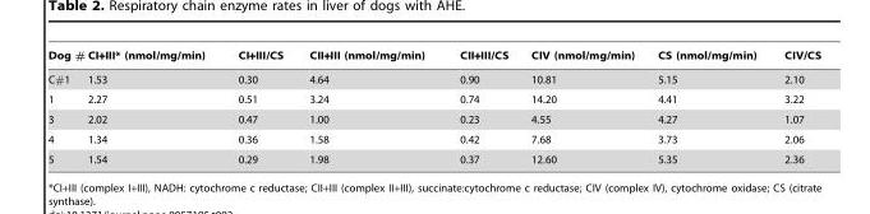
<table><thead><tr><td>Dog #</td><td>CI+III* (nmol/mg/min)</td><td>CI+III/CS</td><td>CII+III (nmol/mg/min)</td><td>CII+III/CS</td><td>CIV (nmol/mg/min)</td><td>CS (nmol/mg/min)</td><td>CIV/CS</td></tr></thead><tbody><tr><td>C#1</td><td>1.53</td><td>0.30</td><td>4.64</td><td>0.90</td><td>10.81</td><td>5.15</td><td>2.10</td></tr><tr><td>1</td><td>2.27</td><td>0.51</td><td>3.24</td><td>0.74</td><td>14.20</td><td>4.41</td><td>3.22</td></tr><tr><td>3</td><td>2.02</td><td>0.47</td><td>1.00</td><td>0.23</td><td>4.55</td><td>4.27</td><td>1.07</td></tr><tr><td>4</td><td>1.34</td><td>0.36</td><td>1.58</td><td>0.42</td><td>7.68</td><td>3.73</td><td>2.06</td></tr><tr><td>5</td><td>1.54</td><td>0.29</td><td>1.98</td><td>0.37</td><td>12.60</td><td>5.35</td><td>2.36</td></tr></tbody></table>